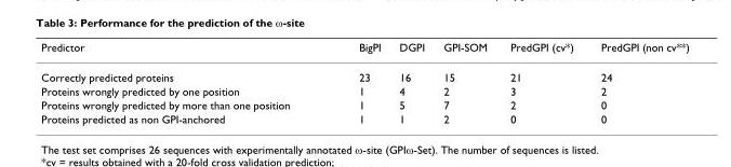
<table><thead><tr><td>Predictor</td><td>BigPI</td><td>DGPI</td><td>GPI-SOM</td><td>PredGPI (cv*)</td><td>PredGPI (non cv**)</td></tr></thead><tbody><tr><td>Correctly predicted proteins</td><td>23</td><td>16</td><td>15</td><td>21</td><td>24</td></tr><tr><td>Proteins wrongly predicted by one position</td><td>1</td><td>4</td><td>2</td><td>3</td><td>2</td></tr><tr><td>Proteins wrongly predicted by more than one position</td><td>1</td><td>5</td><td>7</td><td>2</td><td>0</td></tr><tr><td>Proteins predicted as non GPI-anchored</td><td>1</td><td>1</td><td>2</td><td>0</td><td>0</td></tr></tbody></table>